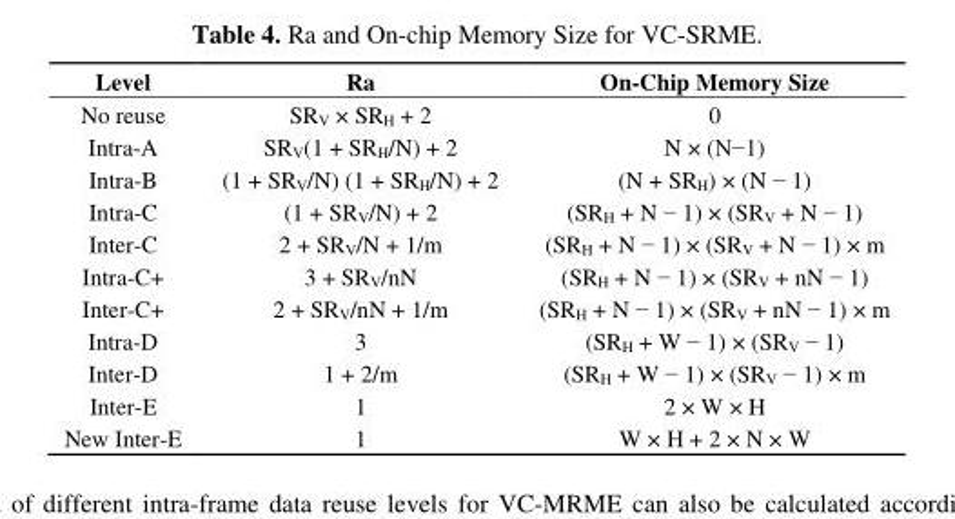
<table><thead><tr><td>Level</td><td>Ra</td><td>On-Chip Memory Size</td></tr></thead><tbody><tr><td>No reuse</td><td>SR<sub>V</sub> × SR<sub>H</sub> + 2</td><td>0</td></tr><tr><td>Intra-A</td><td>SR<sub>V</sub>(1 + SR<sub>H</sub>/N) + 2</td><td>N × (N−1)</td></tr><tr><td>Intra-B</td><td>(1 + SR<sub>V</sub>/N) (1 + SR<sub>H</sub>/N) + 2</td><td>(N + SR<sub>H</sub>) × (N − 1)</td></tr><tr><td>Intra-C</td><td>(1 + SR<sub>V</sub>/N) + 2</td><td>(SR<sub>H</sub> + N − 1) × (SR<sub>V</sub> + N − 1)</td></tr><tr><td>Inter-C</td><td>2 + SR<sub>V</sub>/N + 1/m</td><td>(SR<sub>H</sub> + N − 1) × (SR<sub>V</sub> + N − 1) × m</td></tr><tr><td>Intra-C+</td><td>3 + SR<sub>V</sub>/nN</td><td>(SR<sub>H</sub> + N − 1) × (SR<sub>V</sub> + nN − 1)</td></tr><tr><td>Inter-C+</td><td>2 + SR<sub>V</sub>/nN + 1/m</td><td>(SR<sub>H</sub> + N − 1) × (SR<sub>V</sub> + nN − 1) × m</td></tr><tr><td>Intra-D</td><td>3</td><td>(SR<sub>H</sub> + W − 1) × (SR<sub>V</sub> − 1)</td></tr><tr><td>Inter-D</td><td>1 + 2/m</td><td>(SR<sub>H</sub> + W − 1) × (SR<sub>V</sub> − 1) × m</td></tr><tr><td>Inter-E</td><td>1</td><td>2 × W × H</td></tr><tr><td>New Inter-E</td><td>1</td><td>W × H + 2 × N × W</td></tr></tbody></table>